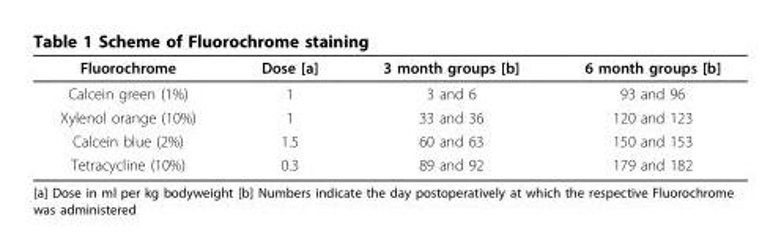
<table><thead><tr><td>Fluorochrome</td><td>Dose [a]</td><td>3 month groups [b]</td><td>6 month groups [b]</td></tr></thead><tbody><tr><td>Calcein green (1%)</td><td>1</td><td>3 and 6</td><td>93 and 96</td></tr><tr><td>Xylenol orange (10%)</td><td>1</td><td>33 and 36</td><td>120 and 123</td></tr><tr><td>Calcein blue (2%)</td><td>1.5</td><td>60 and 63</td><td>150 and 153</td></tr><tr><td>Tetracycline (10%)</td><td>0.3</td><td>89 and 92</td><td>179 and 182</td></tr></tbody></table>